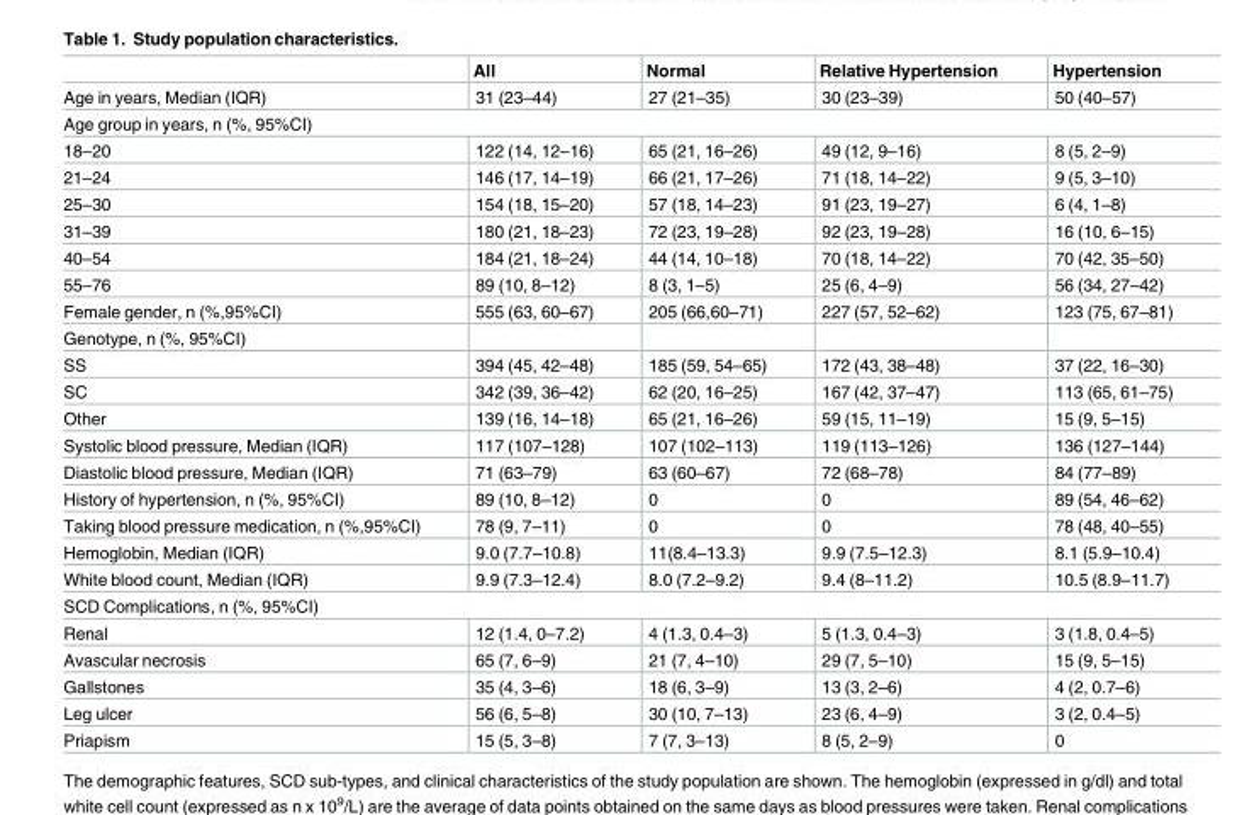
<table><thead><tr><td></td><td>All</td><td>Normal</td><td>Relative Hypertension</td><td>Hypertension</td></tr></thead><tbody><tr><td>Age in years, Median (IQR)</td><td>31 (23–44)</td><td>27 (21–35)</td><td>30 (23–39)</td><td>50 (40–57)</td></tr><tr><td colspan="5">Age group in years, n (%, 95%CI)</td></tr><tr><td>18–20</td><td>122 (14, 12–16)</td><td>65 (21, 16–26)</td><td>49 (12, 9–16)</td><td>8 (5, 2–9)</td></tr><tr><td>21–24</td><td>146 (17, 14–19)</td><td>66 (21, 17–26)</td><td>71 (18, 14–22)</td><td>9 (5, 3–10)</td></tr><tr><td>25–30</td><td>154 (18, 15–20)</td><td>57 (18, 14–23)</td><td>91 (23, 19–27)</td><td>6 (4, 1–8)</td></tr><tr><td>31–39</td><td>180 (21, 18–23)</td><td>72 (23, 19–28)</td><td>92 (23, 19–28)</td><td>16 (10, 6–15)</td></tr><tr><td>40–54</td><td>184 (21, 18–24)</td><td>44 (14, 10–18)</td><td>70 (18, 14–22)</td><td>70 (42, 35–50)</td></tr><tr><td>55–76</td><td>89 (10, 8–12)</td><td>8 (3, 1–5)</td><td>25 (6, 4–9)</td><td>56 (34, 27–42)</td></tr><tr><td>Female gender, n (%,95%CI)</td><td>555 (63, 60–67)</td><td>205 (66,60–71)</td><td>227 (57, 52–62)</td><td>123 (75, 67–81)</td></tr><tr><td colspan="5">Genotype, n (%, 95%CI)</td></tr><tr><td>SS</td><td>394 (45, 42–48)</td><td>185 (59, 54–65)</td><td>172 (43, 38–48)</td><td>37 (22, 16–30)</td></tr><tr><td>SC</td><td>342 (39, 36–42)</td><td>62 (20, 16–25)</td><td>167 (42, 37–47)</td><td>113 (65, 61–75)</td></tr><tr><td>Other</td><td>139 (16, 14–18)</td><td>65 (21, 16–26)</td><td>59 (15, 11–19)</td><td>15 (9, 5–15)</td></tr><tr><td>Systolic blood pressure, Median (IQR)</td><td>117 (107–128)</td><td>107 (102–113)</td><td>119 (113–126)</td><td>136 (127–144)</td></tr><tr><td>Diastolic blood pressure, Median (IQR)</td><td>71 (63–79)</td><td>63 (60–67)</td><td>72 (68–78)</td><td>84 (77–89)</td></tr><tr><td>History of hypertension, n (%, 95%CI)</td><td>89 (10, 8–12)</td><td>0</td><td>0</td><td>89 (54, 46–62)</td></tr><tr><td>Taking blood pressure medication, n (%,95%CI)</td><td>78 (9, 7–11)</td><td>0</td><td>0</td><td>78 (48, 40–55)</td></tr><tr><td>Hemoglobin, Median (IQR)</td><td>9.0 (7.7–10.8)</td><td>11(8.4–13.3)</td><td>9.9 (7.5–12.3)</td><td>8.1 (5.9–10.4)</td></tr><tr><td>White blood count, Median (IQR)</td><td>9.9 (7.3–12.4)</td><td>8.0 (7.2–9.2)</td><td>9.4 (8–11.2)</td><td>10.5 (8.9–11.7)</td></tr><tr><td colspan="5">SCD Complications, n (%, 95%CI)</td></tr><tr><td>Renal</td><td>12 (1.4, 0–7.2)</td><td>4 (1.3, 0.4–3)</td><td>5 (1.3, 0.4–3)</td><td>3 (1.8, 0.4–5)</td></tr><tr><td>Avascular necrosis</td><td>65 (7, 6–9)</td><td>21 (7, 4–10)</td><td>29 (7, 5–10)</td><td>15 (9, 5–15)</td></tr><tr><td>Gallstones</td><td>35 (4, 3–6)</td><td>18 (6, 3–9)</td><td>13 (3, 2–6)</td><td>4 (2, 0.7–6)</td></tr><tr><td>Leg ulcer</td><td>56 (6, 5–8)</td><td>30 (10, 7–13)</td><td>23 (6, 4–9)</td><td>3 (2, 0.4–5)</td></tr><tr><td>Priapism</td><td>15 (5, 3–8)</td><td>7 (7, 3–13)</td><td>8 (5, 2–9)</td><td>0</td></tr></tbody></table>